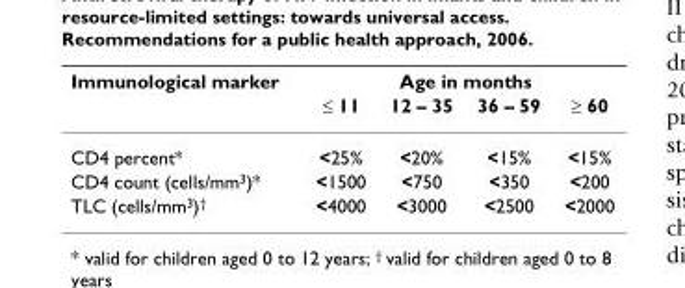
<table><thead><tr><td rowspan="2">Immunological marker</td><td colspan="4">Age in months</td></tr><tr><td>≤ 11</td><td>12 – 35</td><td>36 – 59</td><td>≥ 60</td></tr></thead><tbody><tr><td>CD4 percent*</td><td>&lt;25%</td><td>&lt;20%</td><td>&lt;15%</td><td>&lt;15%</td></tr><tr><td>CD4 count (cells/mm<sup>3</sup>)*</td><td>&lt;1500</td><td>&lt;750</td><td>&lt;350</td><td>&lt;200</td></tr><tr><td>TLC (cells/mm<sup>3</sup>)<sup>†</sup></td><td>&lt;4000</td><td>&lt;3000</td><td>&lt;2500</td><td>&lt;2000</td></tr></tbody></table>